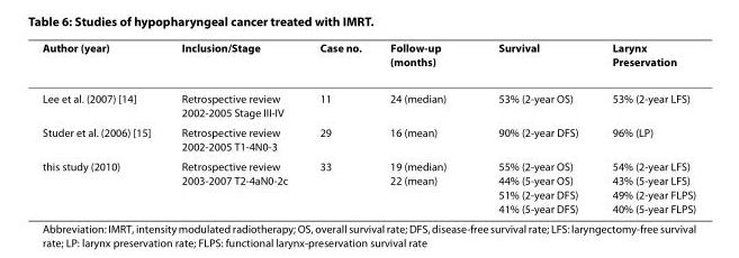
<table><thead><tr><td>Author (year)</td><td>Inclusion/Stage</td><td>Case no.</td><td>Follow-up (months)</td><td>Survival</td><td>Larynx Preservation</td></tr></thead><tbody><tr><td>Lee et al. (2007) [14]</td><td>Retrospective review 2002-2005 Stage III-IV</td><td>11</td><td>24 (median)</td><td>53% (2-year OS)</td><td>53% (2-year LFS)</td></tr><tr><td>Studer et al. (2006) [15]</td><td>Retrospective review 2002-2005 T1-4N0-3</td><td>29</td><td>16 (mean)</td><td>90% (2-year DFS)</td><td>96% (LP)</td></tr><tr><td>this study (2010)</td><td>Retrospective review 2003-2007 T2-4aN0-2c</td><td>33</td><td>19 (median) 22 (mean)</td><td>55% (2-year OS) 44% (5-year OS) 51% (2-year DFS) 41% (5-year DFS)</td><td>54% (2-year LFS) 43% (5-year LFS) 49% (2-year FLPS) 40% (5-year FLPS)</td></tr></tbody></table>